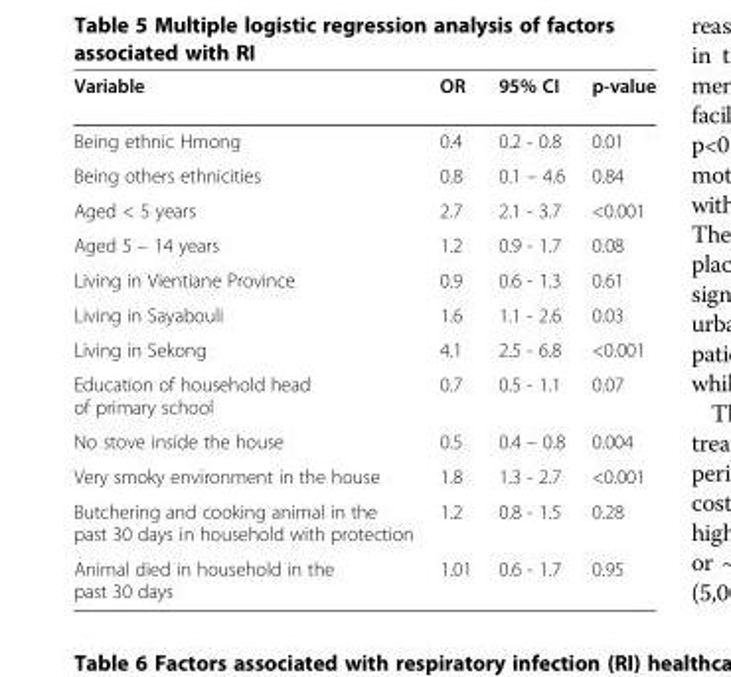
<table><thead><tr><td>Variable</td><td>OR</td><td>95% CI</td><td>p-value</td></tr></thead><tbody><tr><td>Being ethnic Hmong</td><td>0.4</td><td>0.2 - 0.8</td><td>0.01</td></tr><tr><td>Being others ethnicities</td><td>0.8</td><td>0.1 – 4.6</td><td>0.84</td></tr><tr><td>Aged &lt; 5 years</td><td>2.7</td><td>2.1 - 3.7</td><td>&lt;0.001</td></tr><tr><td>Aged 5 – 14 years</td><td>1.2</td><td>0.9 - 1.7</td><td>0.08</td></tr><tr><td>Living in Vientiane Province</td><td>0.9</td><td>0.6 - 1.3</td><td>0.61</td></tr><tr><td>Living in Sayabouli</td><td>1.6</td><td>1.1 - 2.6</td><td>0.03</td></tr><tr><td>Living in Sekong</td><td>4.1</td><td>2.5 - 6.8</td><td>&lt;0.001</td></tr><tr><td>Education of household head of primary school</td><td>0.7</td><td>0.5 - 1.1</td><td>0.07</td></tr><tr><td>No stove inside the house</td><td>0.5</td><td>0.4 – 0.8</td><td>0.004</td></tr><tr><td>Very smoky environment in the house</td><td>1.8</td><td>1.3 - 2.7</td><td>&lt;0.001</td></tr><tr><td>Butchering and cooking animal in the past 30 days in household with protection</td><td>1.2</td><td>0.8 - 1.5</td><td>0.28</td></tr><tr><td>Animal died in household in the past 30 days</td><td>1.01</td><td>0.6 - 1.7</td><td>0.95</td></tr></tbody></table>